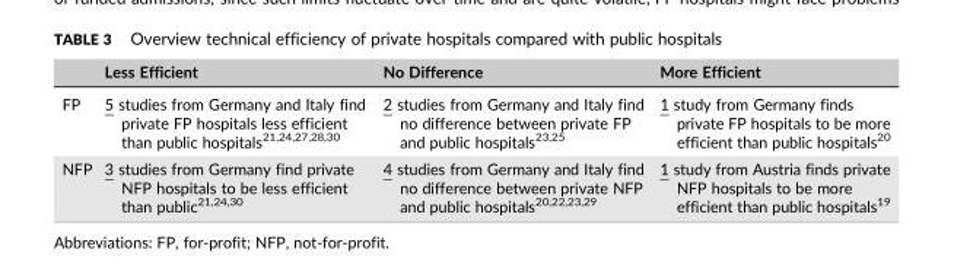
<table><thead><tr><td></td><td>Less Efficient</td><td>No Difference</td><td>More Efficient</td></tr></thead><tbody><tr><td>FP</td><td>5 studies from Germany and Italy find private FP hospitals less efficient than public hospitals<sup>21</sup>,<sup>24</sup>,<sup>27</sup>,<sup>28</sup>,<sup>30</sup></td><td>2 studies from Germany and Italy find no difference between private FP and public hospitals<sup>23</sup>,<sup>25</sup></td><td>1 study from Germany finds private FP hospitals to be more efficient than public hospitals<sup>20</sup></td></tr><tr><td>NFP</td><td>3 studies from Germany find private NFP hospitals to be less efficient than public<sup>21</sup>,<sup>24</sup>,<sup>30</sup></td><td>4 studies from Germany and Italy find no difference between private NFP and public hospitals<sup>20</sup>,<sup>22</sup>,<sup>23</sup>,<sup>29</sup></td><td>1 study from Austria finds private NFP hospitals to be more efficient than public hospitals<sup>19</sup></td></tr></tbody></table>